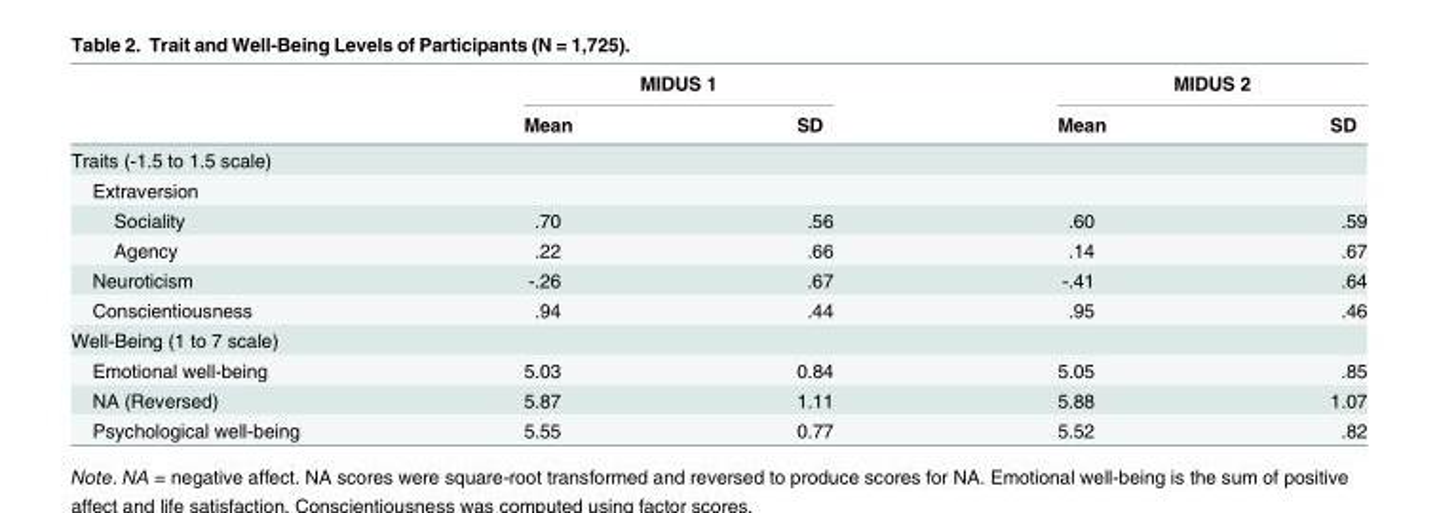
<table><thead><tr><td rowspan="2"></td><td colspan="2">MIDUS 1</td><td colspan="2">MIDUS 2</td></tr><tr><td>Mean</td><td>SD</td><td>Mean</td><td>SD</td></tr></thead><tbody><tr><td colspan="5">Traits (-1.5 to 1.5 scale)</td></tr><tr><td colspan="5">Extraversion</td></tr><tr><td>Sociality</td><td>.70</td><td>.56</td><td>.60</td><td>.59</td></tr><tr><td>Agency</td><td>.22</td><td>.66</td><td>.14</td><td>.67</td></tr><tr><td>Neuroticism</td><td>-.26</td><td>.67</td><td>-.41</td><td>.64</td></tr><tr><td>Conscientiousness</td><td>.94</td><td>.44</td><td>.95</td><td>.46</td></tr><tr><td colspan="5">Well-Being (1 to 7 scale)</td></tr><tr><td>Emotional well-being</td><td>5.03</td><td>0.84</td><td>5.05</td><td>.85</td></tr><tr><td>NA (Reversed)</td><td>5.87</td><td>1.11</td><td>5.88</td><td>1.07</td></tr><tr><td>Psychological well-being</td><td>5.55</td><td>0.77</td><td>5.52</td><td>.82</td></tr></tbody></table>